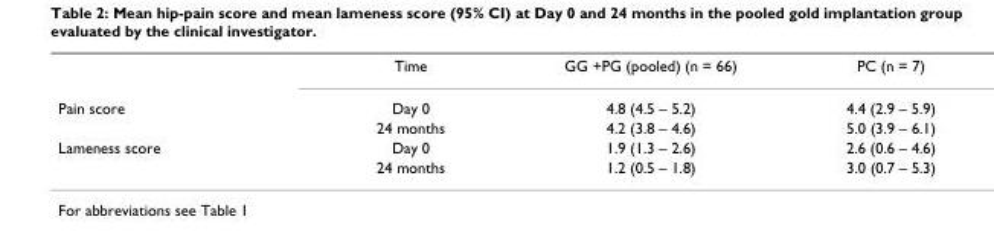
<table><thead><tr><td></td><td>Time</td><td>GG +PG (pooled) (n = 66)</td><td>PC (n = 7)</td></tr></thead><tbody><tr><td rowspan="2">Pain score</td><td>Day 0</td><td>4.8 (4.5 – 5.2)</td><td>4.4 (2.9 – 5.9)</td></tr><tr><td>24 months</td><td>4.2 (3.8 – 4.6)</td><td>5.0 (3.9 – 6.1)</td></tr><tr><td rowspan="2">Lameness score</td><td>Day 0</td><td>1.9 (1.3 – 2.6)</td><td>2.6 (0.6 – 4.6)</td></tr><tr><td>24 months</td><td>1.2 (0.5 – 1.8)</td><td>3.0 (0.7 – 5.3)</td></tr></tbody></table>